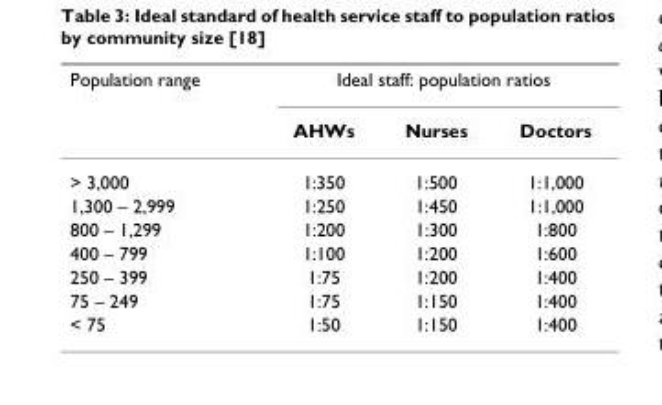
<table><thead><tr><td rowspan="2">Population range</td><td colspan="3">Ideal staff: population ratios</td></tr><tr><td>AHWs</td><td>Nurses</td><td>Doctors</td></tr></thead><tbody><tr><td>&gt; 3,000</td><td>1:350</td><td>1:500</td><td>1:1,000</td></tr><tr><td>1,300 – 2,999</td><td>1:250</td><td>1:450</td><td>1:1,000</td></tr><tr><td>800 – 1,299</td><td>1:200</td><td>1:300</td><td>1:800</td></tr><tr><td>400 – 799</td><td>1:100</td><td>1:200</td><td>1:600</td></tr><tr><td>250 – 399</td><td>1:75</td><td>1:200</td><td>1:400</td></tr><tr><td>75 – 249</td><td>1:75</td><td>1:150</td><td>1:400</td></tr><tr><td>&lt; 75</td><td>1:50</td><td>1:150</td><td>1:400</td></tr></tbody></table>